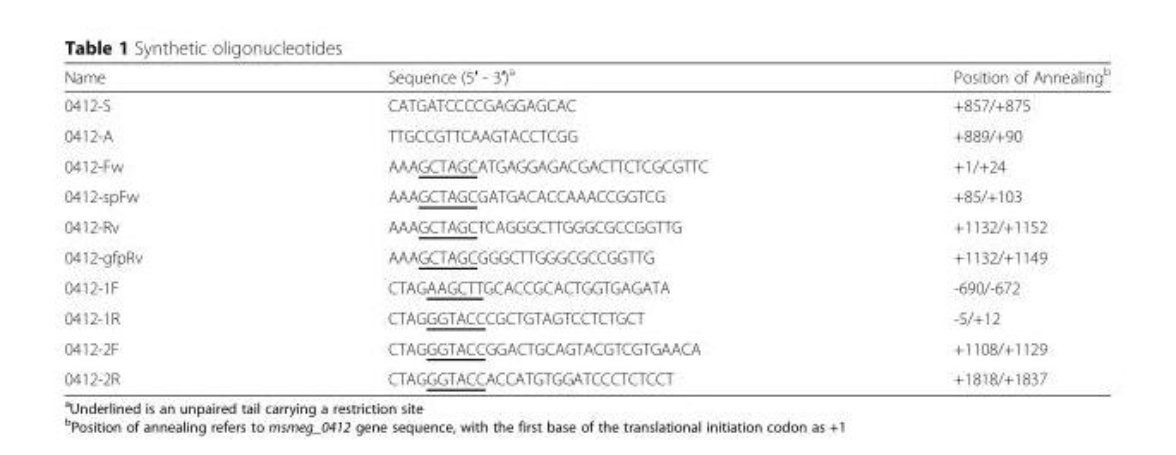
<table><thead><tr><td>Name</td><td>Sequence (5′ - 3′)<sup>a</sup></td><td>Position of Annealing<sup>b</sup></td></tr></thead><tbody><tr><td>0412-S</td><td>CATGATCCCCGAGGAGCAC</td><td>+857/+875</td></tr><tr><td>0412-A</td><td>TTGCCGTTCAAGTACCTCGG</td><td>+889/+90</td></tr><tr><td>0412-Fw</td><td>AAAGCTAGCATGAGGAGACGACTTCTCGCGTTC</td><td>+1/+24</td></tr><tr><td>0412-spFw</td><td>AAAGCTAGCGATGACACCAAACCGGTCG</td><td>+85/+103</td></tr><tr><td>0412-Rv</td><td>AAAGCTAGCTCAGGGCTTGGGCGCCGGTTG</td><td>+1132/+1152</td></tr><tr><td>0412-gfpRv</td><td>AAAGCTAGCGGGCTTGGGCGCCGGTTG</td><td>+1132/+1149</td></tr><tr><td>0412-1F</td><td>CTAGAAGCTTGCACCGCACTGGTGAGATA</td><td>-690/-672</td></tr><tr><td>0412-1R</td><td>CTAGGGTACCCGCTGTAGTCCTCTGCT</td><td>-5/+12</td></tr><tr><td>0412-2F</td><td>CTAGGGTACCGGACTGCAGTACGTCGTGAACA</td><td>+1108/+1129</td></tr><tr><td>0412-2R</td><td>CTAGGGTACCACCATGTGGATCCCTCTCCT</td><td>+1818/+1837</td></tr></tbody></table>